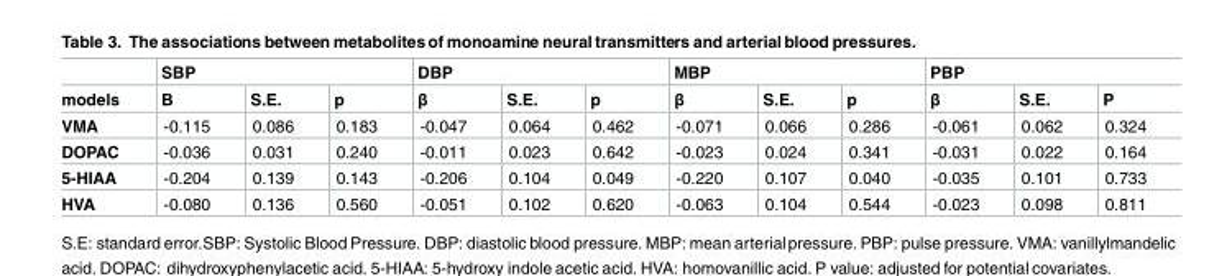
<table><thead><tr><td rowspan="2">models</td><td colspan="3">SBP</td><td colspan="3">DBP</td><td colspan="3">MBP</td><td colspan="3">PBP</td></tr><tr><td>Β</td><td>S.E.</td><td>p</td><td>β</td><td>S.E.</td><td>p</td><td>β</td><td>S.E.</td><td>p</td><td>β</td><td>S.E.</td><td>P</td></tr></thead><tbody><tr><td>VMA</td><td>-0.115</td><td>0.086</td><td>0.183</td><td>-0.047</td><td>0.064</td><td>0.462</td><td>-0.071</td><td>0.066</td><td>0.286</td><td>-0.061</td><td>0.062</td><td>0.324</td></tr><tr><td>DOPAC</td><td>-0.036</td><td>0.031</td><td>0.240</td><td>-0.011</td><td>0.023</td><td>0.642</td><td>-0.023</td><td>0.024</td><td>0.341</td><td>-0.031</td><td>0.022</td><td>0.164</td></tr><tr><td>5-HIAA</td><td>-0.204</td><td>0.139</td><td>0.143</td><td>-0.206</td><td>0.104</td><td>0.049</td><td>-0.220</td><td>0.107</td><td>0.040</td><td>-0.035</td><td>0.101</td><td>0.733</td></tr><tr><td>HVA</td><td>-0.080</td><td>0.136</td><td>0.560</td><td>-0.051</td><td>0.102</td><td>0.620</td><td>-0.063</td><td>0.104</td><td>0.544</td><td>-0.023</td><td>0.098</td><td>0.811</td></tr></tbody></table>